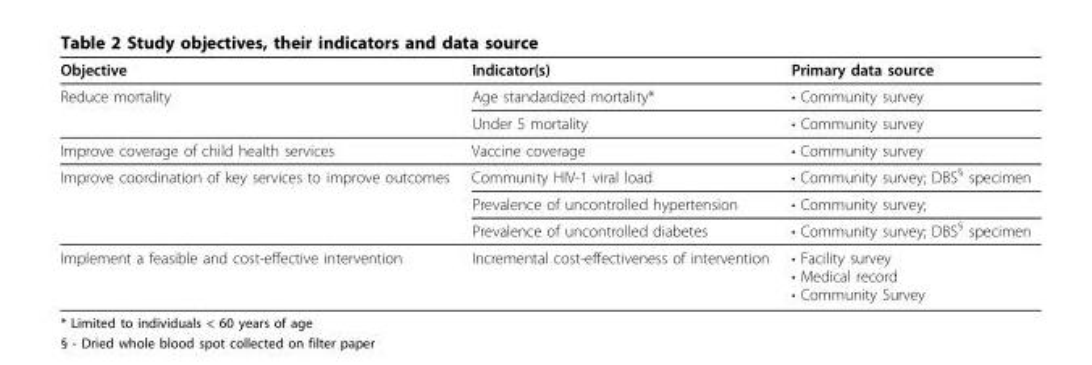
<table><thead><tr><td>Objective</td><td>Indicator(s)</td><td>Primary data source</td></tr></thead><tbody><tr><td rowspan="2">Reduce mortality</td><td>Age standardized mortality*</td><td>• Community survey</td></tr><tr><td>Under 5 mortality</td><td>• Community survey</td></tr><tr><td>Improve coverage of child health services</td><td>Vaccine coverage</td><td>• Community survey</td></tr><tr><td rowspan="3">Improve coordination of key services to improve outcomes</td><td>Community HIV-1 viral load</td><td>• Community survey; DBS<sup>§</sup> specimen</td></tr><tr><td>Prevalence of uncontrolled hypertension</td><td>• Community survey;</td></tr><tr><td>Prevalence of uncontrolled diabetes</td><td>• Community survey; DBS<sup>§</sup> specimen</td></tr><tr><td>Implement a feasible and cost-effective intervention</td><td>Incremental cost-effectiveness of intervention</td><td>• Facility survey • Medical record • Community Survey</td></tr></tbody></table>